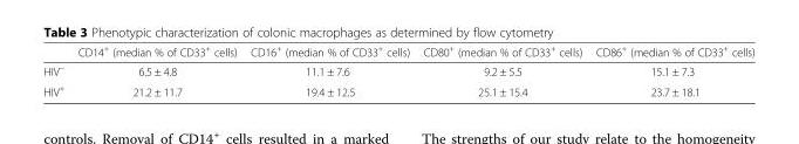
<table><thead><tr><td></td><td>CD14<sup>+</sup> (median % of CD33<sup>+</sup> cells)</td><td>CD16<sup>+</sup> (median % of CD33<sup>+</sup> cells)</td><td>CD80<sup>+</sup> (median % of CD33<sup>+</sup> cells)</td><td>CD86<sup>+</sup> (median % of CD33<sup>+</sup> cells)</td></tr></thead><tbody><tr><td>HIV<sup>−</sup></td><td>6.5 ± 4.8</td><td>11.1 ± 7.6</td><td>9.2 ± 5.5</td><td>15.1 ± 7.3</td></tr><tr><td>HIV<sup>+</sup></td><td>21.2 ± 11.7</td><td>19.4 ± 12.5</td><td>25.1 ± 15.4</td><td>23.7 ± 18.1</td></tr></tbody></table>